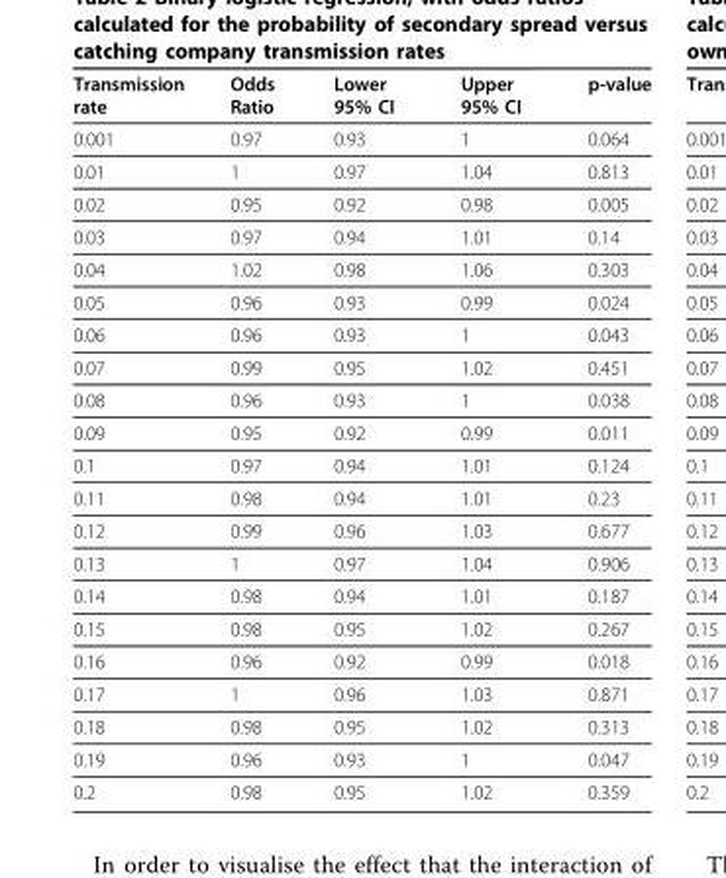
<table><thead><tr><td>Transmission rate</td><td>Odds Ratio</td><td>Lower 95% CI</td><td>Upper 95% CI</td><td>p-value</td></tr></thead><tbody><tr><td>0.001</td><td>0.97</td><td>0.93</td><td>1</td><td>0.064</td></tr><tr><td>0.01</td><td>1</td><td>0.97</td><td>1.04</td><td>0.813</td></tr><tr><td>0.02</td><td>0.95</td><td>0.92</td><td>0.98</td><td>0.005</td></tr><tr><td>0.03</td><td>0.97</td><td>0.94</td><td>1.01</td><td>0.14</td></tr><tr><td>0.04</td><td>1.02</td><td>0.98</td><td>1.06</td><td>0.303</td></tr><tr><td>0.05</td><td>0.96</td><td>0.93</td><td>0.99</td><td>0.024</td></tr><tr><td>0.06</td><td>0.96</td><td>0.93</td><td>1</td><td>0.043</td></tr><tr><td>0.07</td><td>0.99</td><td>0.95</td><td>1.02</td><td>0.451</td></tr><tr><td>0.08</td><td>0.96</td><td>0.93</td><td>1</td><td>0.038</td></tr><tr><td>0.09</td><td>0.95</td><td>0.92</td><td>0.99</td><td>0.011</td></tr><tr><td>0.1</td><td>0.97</td><td>0.94</td><td>1.01</td><td>0.124</td></tr><tr><td>0.11</td><td>0.98</td><td>0.94</td><td>1.01</td><td>0.23</td></tr><tr><td>0.12</td><td>0.99</td><td>0.96</td><td>1.03</td><td>0.677</td></tr><tr><td>0.13</td><td>1</td><td>0.97</td><td>1.04</td><td>0.906</td></tr><tr><td>0.14</td><td>0.98</td><td>0.94</td><td>1.01</td><td>0.187</td></tr><tr><td>0.15</td><td>0.98</td><td>0.95</td><td>1.02</td><td>0.267</td></tr><tr><td>0.16</td><td>0.96</td><td>0.92</td><td>0.99</td><td>0.018</td></tr><tr><td>0.17</td><td>1</td><td>0.96</td><td>1.03</td><td>0.871</td></tr><tr><td>0.18</td><td>0.98</td><td>0.95</td><td>1.02</td><td>0.313</td></tr><tr><td>0.19</td><td>0.96</td><td>0.93</td><td>1</td><td>0.047</td></tr><tr><td>0.2</td><td>0.98</td><td>0.95</td><td>1.02</td><td>0.359</td></tr></tbody></table>